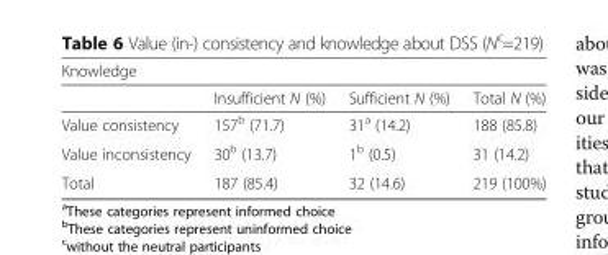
<table><thead><tr><td colspan="4">Knowledge</td></tr><tr><td></td><td>Insufficient N (%)</td><td>Sufficient N (%)</td><td>Total N (%)</td></tr></thead><tbody><tr><td>Value consistency</td><td>157<sup>b</sup> (71.7)</td><td>31<sup>a</sup> (14.2)</td><td>188 (85.8)</td></tr><tr><td>Value inconsistency</td><td>30<sup>b</sup> (13.7)</td><td>1<sup>b</sup> (0.5)</td><td>31 (14.2)</td></tr><tr><td>Total</td><td>187 (85.4)</td><td>32 (14.6)</td><td>219 (100%)</td></tr></tbody></table>